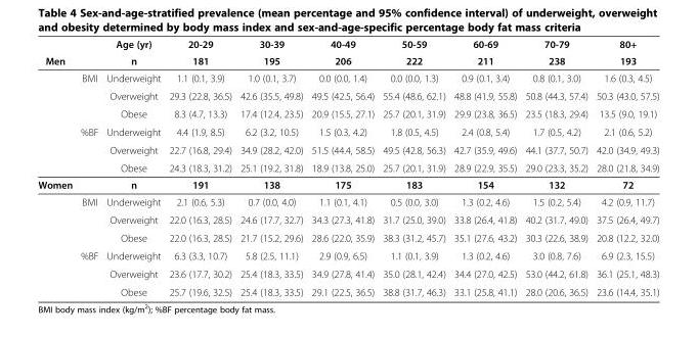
<table><thead><tr><td rowspan="2">Men</td><td rowspan="2"></td><td rowspan="2">Age (yr) n</td><td rowspan="2">20-29 181</td><td rowspan="2">30-39 195</td><td rowspan="2">40-49 206</td><td rowspan="2">50-59 222</td><td rowspan="2">60-69 211</td><td rowspan="2">70-79 238</td><td rowspan="2">80+ 193</td></tr><tr></tr></thead><tbody><tr><td></td><td>BMI</td><td>Underweight</td><td>1.1 (0.1, 3.9)</td><td>1.0 (0.1, 3.7)</td><td>0.0 (0.0, 1.4)</td><td>0.0 (0.0, 1.3)</td><td>0.9 (0.1, 3.4)</td><td>0.8 (0.1, 3.0)</td><td>1.6 (0.3, 4.5)</td></tr><tr><td></td><td></td><td>Overweight</td><td>29.3 (22.8, 36.5)</td><td>42.6 (35.5, 49.8)</td><td>49.5 (42.5, 56.4)</td><td>55.4 (48.6, 62.1)</td><td>48.8 (41.9, 55.8)</td><td>50.8 (44.3, 57.4)</td><td>50.3 (43.0, 57.5)</td></tr><tr><td></td><td></td><td>Obese</td><td>8.3 (4.7, 13.3)</td><td>17.4 (12.4, 23.5)</td><td>20.9 (15.5, 27.1)</td><td>25.7 (20.1, 31.9)</td><td>29.9 (23.8, 36.5)</td><td>23.5 (18.3, 29.4)</td><td>13.5 (9.0, 19.1)</td></tr><tr><td></td><td>%BF</td><td>Underweight</td><td>4.4 (1.9, 8.5)</td><td>6.2 (3.2, 10.5)</td><td>1.5 (0.3, 4.2)</td><td>1.8 (0.5, 4.5)</td><td>2.4 (0.8, 5.4)</td><td>1.7 (0.5, 4.2)</td><td>2.1 (0.6, 5.2)</td></tr><tr><td></td><td></td><td>Overweight</td><td>22.7 (16.8, 29.4)</td><td>34.9 (28.2, 42.0)</td><td>51.5 (44.4, 58.5)</td><td>49.5 (42.8, 56.3)</td><td>42.7 (35.9, 49.6)</td><td>44.1 (37.7, 50.7)</td><td>42.0 (34.9, 49.3)</td></tr><tr><td></td><td></td><td>Obese</td><td>24.3 (18.3, 31.2)</td><td>25.1 (19.2, 31.8)</td><td>18.9 (13.8, 25.0)</td><td>25.7 (20.1, 31.9)</td><td>28.9 (22.9, 35.5)</td><td>29.0 (23.3, 35.2)</td><td>28.0 (21.8, 34.9)</td></tr><tr><td rowspan="7">Women</td><td></td><td>n</td><td>191</td><td>138</td><td>175</td><td>183</td><td>154</td><td>132</td><td>72</td></tr><tr><td>BMI</td><td>Underweight</td><td>2.1 (0.6, 5.3)</td><td>0.7 (0.0, 4.0)</td><td>1.1 (0.1, 4.1)</td><td>0.5 (0.0, 3.0)</td><td>1.3 (0.2, 4.6)</td><td>1.5 (0.2, 5.4)</td><td>4.2 (0.9, 11.7)</td></tr><tr><td></td><td>Overweight</td><td>22.0 (16.3, 28.5)</td><td>24.6 (17.7, 32.7)</td><td>34.3 (27.3, 41.8)</td><td>31.7 (25.0, 39.0)</td><td>33.8 (26.4, 41.8)</td><td>40.2 (31.7, 49.0)</td><td>37.5 (26.4, 49.7)</td></tr><tr><td></td><td>Obese</td><td>22.0 (16.3, 28.5)</td><td>21.7 (15.2, 29.6)</td><td>28.6 (22.0, 35.9)</td><td>38.3 (31.2, 45.7)</td><td>35.1 (27.6, 43.2)</td><td>30.3 (22.6, 38.9)</td><td>20.8 (12.2, 32.0)</td></tr><tr><td>%BF</td><td>Underweight</td><td>6.3 (3.3, 10.7)</td><td>5.8 (2.5, 11.1)</td><td>2.9 (0.9, 6.5)</td><td>1.1 (0.1, 3.9)</td><td>1.3 (0.2, 4.6)</td><td>3.0 (0.8, 7.6)</td><td>6.9 (2.3, 15.5)</td></tr><tr><td></td><td>Overweight</td><td>23.6 (17.7, 30.2)</td><td>25.4 (18.3, 33.5)</td><td>34.9 (27.8, 41.4)</td><td>35.0 (28.1, 42.4)</td><td>34.4 (27.0, 42.5)</td><td>53.0 (44.2, 61.8)</td><td>36.1 (25.1, 48.3)</td></tr><tr><td></td><td>Obese</td><td>25.7 (19.6, 32.5)</td><td>25.4 (18.3, 33.5)</td><td>29.1 (22.5, 36.5)</td><td>38.8 (31.7, 46.3)</td><td>33.1 (25.8, 41.1)</td><td>28.0 (20.6, 36.5)</td><td>23.6 (14.4, 35.1)</td></tr></tbody></table>